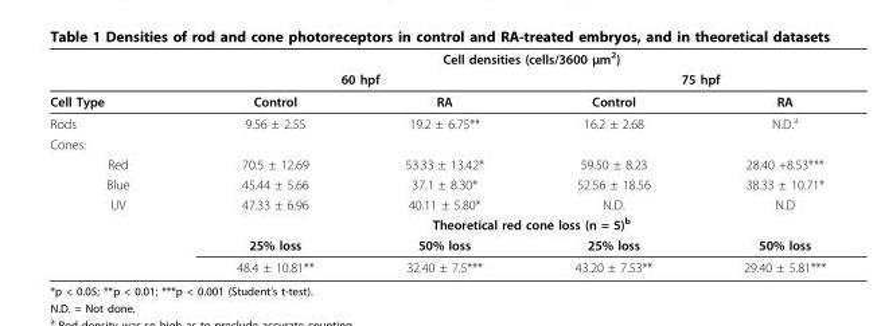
<table><thead><tr><td rowspan="3">Cell Type</td><td colspan="4">Cell densities (cells/3600 μm<sup>2</sup>)</td></tr><tr><td colspan="2">60 hpf</td><td colspan="2">75 hpf</td></tr><tr><td>Control</td><td>RA</td><td>Control</td><td>RA</td></tr></thead><tbody><tr><td>Rods</td><td>9.56 ± 2.55</td><td>19.2 ± 6.75**</td><td>16.2 ± 2.68</td><td>N.D.<sup>a</sup></td></tr><tr><td colspan="5">Cones:</td></tr><tr><td>Red</td><td>70.5 ± 12.69</td><td>53.33 ± 13.42*</td><td>59.50 ± 8.23</td><td>28.40 +8.53***</td></tr><tr><td>Blue</td><td>45.44 ± 5.66</td><td>37.1 ± 8.30*</td><td>52.56 ± 18.56</td><td>38.33 ± 10.71*</td></tr><tr><td rowspan="4">UV</td><td>47.33 ± 6.96</td><td>40.11 ± 5.80*</td><td>N.D.</td><td>N.D</td></tr><tr><td colspan="4">Theoretical red cone loss (n = 5)<sup>b</sup></td></tr><tr><td>25% loss</td><td>50% loss</td><td>25% loss</td><td>50% loss</td></tr><tr><td>48.4 ± 10.81**</td><td>32.40 ± 7.5***</td><td>43.20 ± 7.53**</td><td>29.40 ± 5.81***</td></tr></tbody></table>